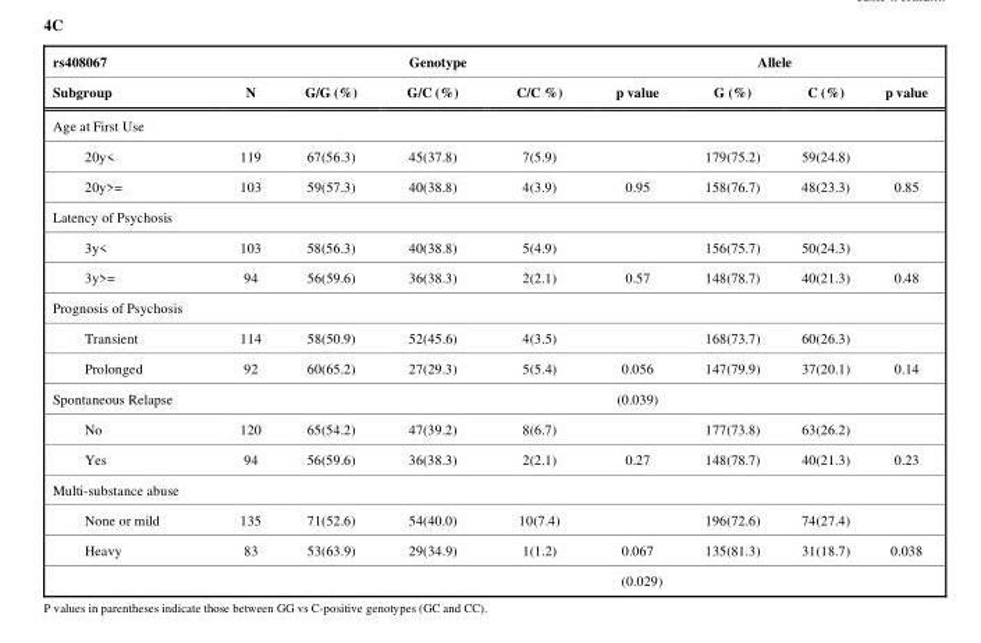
<table><thead><tr><td rowspan="2">rs408067 Subgroup</td><td rowspan="2">N</td><td colspan="3">Genotype</td><td rowspan="2">p value</td><td colspan="2">Allele</td><td rowspan="2">p value</td></tr><tr><td>G/G (%)</td><td>G/C (%)</td><td>C/C %)</td><td>G (%)</td><td>C (%)</td></tr></thead><tbody><tr><td colspan="9">Age at First Use</td></tr><tr><td>20y&lt;</td><td>119</td><td>67(56.3)</td><td>45(37.8)</td><td>7(5.9)</td><td></td><td>179(75.2)</td><td>59(24.8)</td><td></td></tr><tr><td>20y&gt;=</td><td>103</td><td>59(57.3)</td><td>40(38.8)</td><td>4(3.9)</td><td>0.95</td><td>158(76.7)</td><td>48(23.3)</td><td>0.85</td></tr><tr><td colspan="9">Latency of Psychosis</td></tr><tr><td>3y&lt;</td><td>103</td><td>58(56.3)</td><td>40(38.8)</td><td>5(4.9)</td><td></td><td>156(75.7)</td><td>50(24.3)</td><td></td></tr><tr><td>3y&gt;=</td><td>94</td><td>56(59.6)</td><td>36(38.3)</td><td>2(2.1)</td><td>0.57</td><td>148(78.7)</td><td>40(21.3)</td><td>0.48</td></tr><tr><td colspan="9">Prognosis of Psychosis</td></tr><tr><td>Transient</td><td>114</td><td>58(50.9)</td><td>52(45.6)</td><td>4(3.5)</td><td></td><td>168(73.7)</td><td>60(26.3)</td><td></td></tr><tr><td>Prolonged</td><td>92</td><td>60(65.2)</td><td>27(29.3)</td><td>5(5.4)</td><td>0.056</td><td>147(79.9)</td><td>37(20.1)</td><td>0.14</td></tr><tr><td>Spontaneous Relapse</td><td></td><td></td><td></td><td></td><td>(0.039)</td><td></td><td></td><td></td></tr><tr><td>No</td><td>120</td><td>65(54.2)</td><td>47(39.2)</td><td>8(6.7)</td><td></td><td>177(73.8)</td><td>63(26.2)</td><td></td></tr><tr><td>Yes</td><td>94</td><td>56(59.6)</td><td>36(38.3)</td><td>2(2.1)</td><td>0.27</td><td>148(78.7)</td><td>40(21.3)</td><td>0.23</td></tr><tr><td colspan="9">Multi-substance abuse</td></tr><tr><td>None or mild</td><td>135</td><td>71(52.6)</td><td>54(40.0)</td><td>10(7.4)</td><td></td><td>196(72.6)</td><td>74(27.4)</td><td></td></tr><tr><td rowspan="2">Heavy</td><td>83</td><td>53(63.9)</td><td>29(34.9)</td><td>1(1.2)</td><td>0.067</td><td>135(81.3)</td><td>31(18.7)</td><td>0.038</td></tr><tr><td></td><td></td><td></td><td></td><td>(0.029)</td><td></td><td></td><td></td></tr></tbody></table>